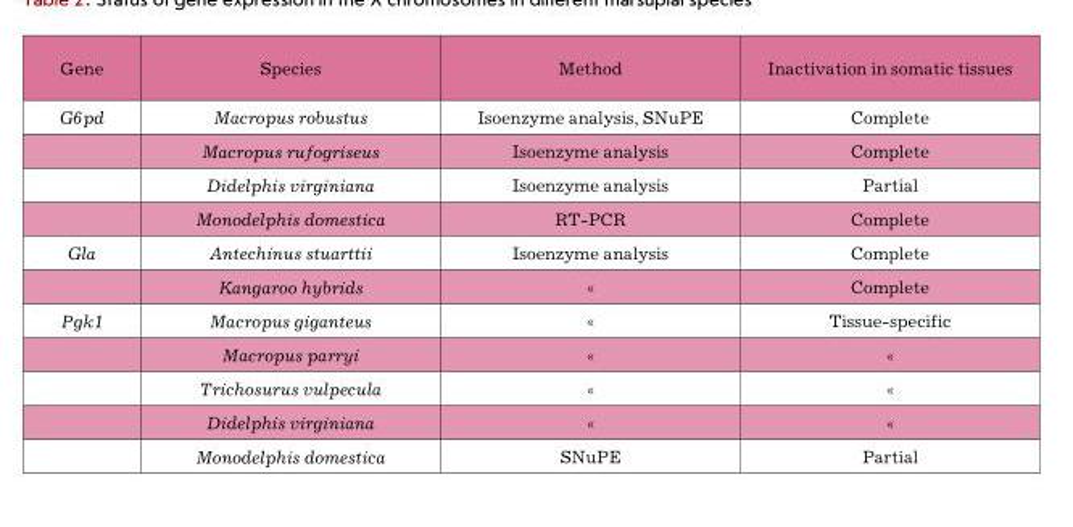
<table><thead><tr><td>Gene</td><td>Species</td><td>Method</td><td>Inactivation in somatic tissues</td></tr></thead><tbody><tr><td rowspan="4">G6pd</td><td>Macropus robustus</td><td>Isoenzyme analysis, SnuPe</td><td>complete</td></tr><tr><td>Macropus rufogriseus</td><td>Isoenzyme analysis</td><td>complete</td></tr><tr><td>Didelphis virginiana</td><td>Isoenzyme analysis</td><td>Partial</td></tr><tr><td>Monodelphis domestica</td><td>rt-Pcr</td><td>complete</td></tr><tr><td rowspan="2">Gla</td><td>Antechinus stuarttii</td><td>Isoenzyme analysis</td><td>complete</td></tr><tr><td>Kangaroo hybrids</td><td>«</td><td>complete</td></tr><tr><td rowspan="5">Pgk1</td><td>Macropus giganteus</td><td>«</td><td>tissue-specific</td></tr><tr><td>Macropus parryi</td><td>«</td><td>«</td></tr><tr><td>Trichosurus vulpecula</td><td>«</td><td>«</td></tr><tr><td>Didelphis virginiana</td><td>«</td><td>«</td></tr><tr><td>Monodelphis domestica</td><td>SnuPe</td><td>Partial</td></tr></tbody></table>